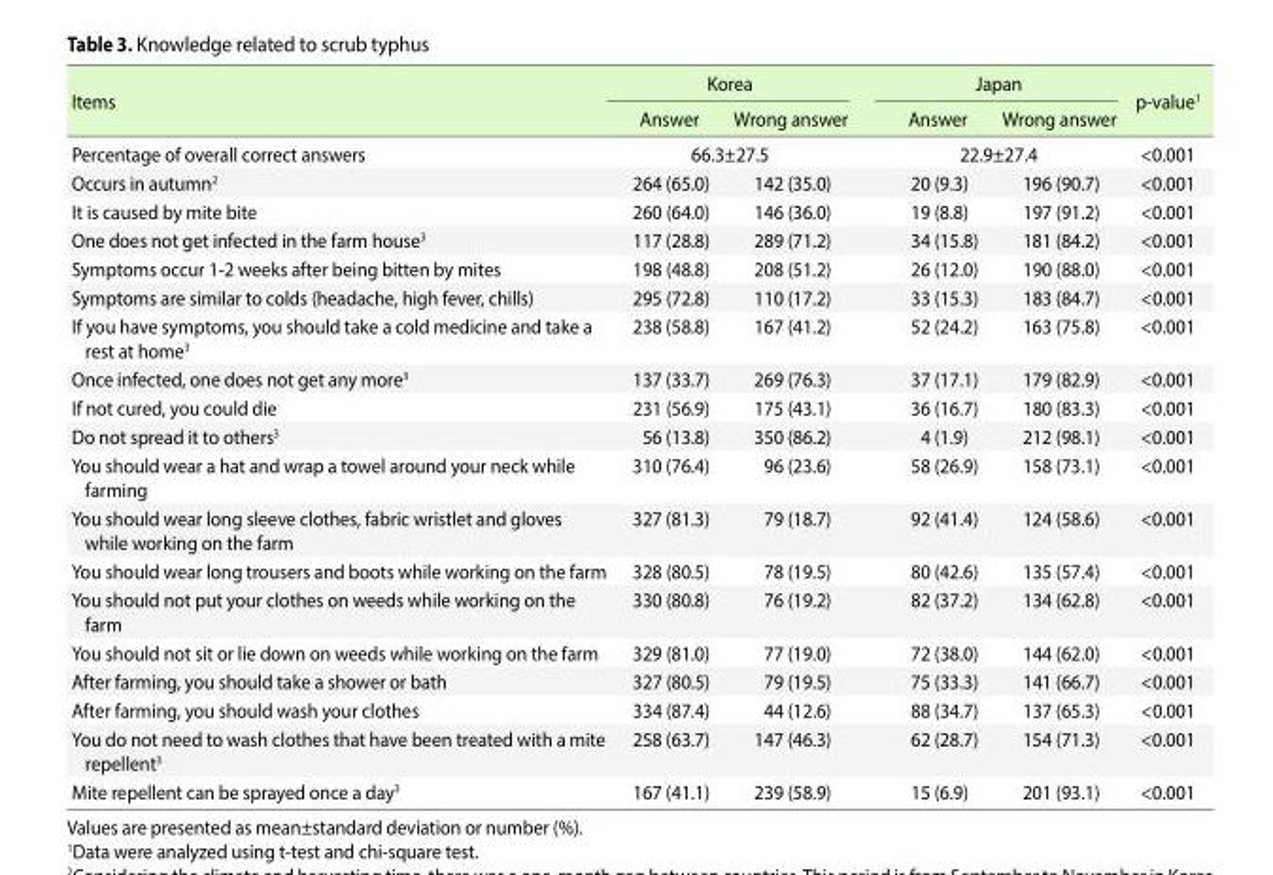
<table><thead><tr><td rowspan="2">Items</td><td colspan="2">Korea</td><td colspan="2">Japan</td><td rowspan="2">p-value<sup>1</sup></td></tr><tr><td>Answer</td><td>Wrong answer</td><td>Answer</td><td>Wrong answer</td></tr></thead><tbody><tr><td>Percentage of overall correct answers</td><td colspan="2">66.3±27.5</td><td colspan="2">22.9±27.4</td><td>&lt;0.001</td></tr><tr><td>Occurs in autumn<sup>2</sup></td><td>264 (65.0)</td><td>142 (35.0)</td><td>20 (9.3)</td><td>196 (90.7)</td><td>&lt;0.001</td></tr><tr><td>It is caused by mite bite</td><td>260 (64.0)</td><td>146 (36.0)</td><td>19 (8.8)</td><td>197 (91.2)</td><td>&lt;0.001</td></tr><tr><td>One does not get infected in the farm house3</td><td>117 (28.8)</td><td>289 (71.2)</td><td>34 (15.8)</td><td>181 (84.2)</td><td>&lt;0.001</td></tr><tr><td>Symptoms occur 1-2 weeks after being bitten by mites</td><td>198 (48.8)</td><td>208 (51.2)</td><td>26 (12.0)</td><td>190 (88.0)</td><td>&lt;0.001</td></tr><tr><td>Symptoms are similar to colds (headache, high fever, chills)</td><td>295 (72.8)</td><td>110 (17.2)</td><td>33 (15.3)</td><td>183 (84.7)</td><td>&lt;0.001</td></tr><tr><td>If you have symptoms, you should take a cold medicine and take a rest at home<sup>3</sup></td><td>238 (58.8)</td><td>167 (41.2)</td><td>52 (24.2)</td><td>163 (75.8)</td><td>&lt;0.001</td></tr><tr><td>Once infected, one does not get any more<sup>3</sup></td><td>137 (33.7)</td><td>269 (76.3)</td><td>37 (17.1)</td><td>179 (82.9)</td><td>&lt;0.001</td></tr><tr><td>If not cured, you could die</td><td>231 (56.9)</td><td>175 (43.1)</td><td>36 (16.7)</td><td>180 (83.3)</td><td>&lt;0.001</td></tr><tr><td>Do not spread it to others<sup>3</sup></td><td>56 (13.8)</td><td>350 (86.2)</td><td>4 (1.9)</td><td>212 (98.1)</td><td>&lt;0.001</td></tr><tr><td>You should wear a hat and wrap a towel around your neck while farming</td><td>310 (76.4)</td><td>96 (23.6)</td><td>58 (26.9)</td><td>158 (73.1)</td><td>&lt;0.001</td></tr><tr><td>You should wear long sleeve clothes, fabric wristlet and gloves while working on the farm</td><td>327 (81.3)</td><td>79 (18.7)</td><td>92 (41.4)</td><td>124 (58.6)</td><td>&lt;0.001</td></tr><tr><td>You should wear long trousers and boots while working on the farm</td><td>328 (80.5)</td><td>78 (19.5)</td><td>80 (42.6)</td><td>135 (57.4)</td><td>&lt;0.001</td></tr><tr><td>You should not put your clothes on weeds while working on the farm</td><td>330 (80.8)</td><td>76 (19.2)</td><td>82 (37.2)</td><td>134 (62.8)</td><td>&lt;0.001</td></tr><tr><td>You should not sit or lie down on weeds while working on the farm</td><td>329 (81.0)</td><td>77 (19.0)</td><td>72 (38.0)</td><td>144 (62.0)</td><td>&lt;0.001</td></tr><tr><td>After farming, you should take a shower or bath</td><td>327 (80.5)</td><td>79 (19.5)</td><td>75 (33.3)</td><td>141 (66.7)</td><td>&lt;0.001</td></tr><tr><td>After farming, you should wash your clothes</td><td>334 (87.4)</td><td>44 (12.6)</td><td>88 (34.7)</td><td>137 (65.3)</td><td>&lt;0.001</td></tr><tr><td>You do not need to wash clothes that have been treated with a mite repellent<sup>3</sup></td><td>258 (63.7)</td><td>147 (46.3)</td><td>62 (28.7)</td><td>154 (71.3)</td><td>&lt;0.001</td></tr><tr><td>Mite repellent can be sprayed once a day<sup>3</sup></td><td>167 (41.1)</td><td>239 (58.9)</td><td>15 (6.9)</td><td>201 (93.1)</td><td>&lt;0.001</td></tr></tbody></table>